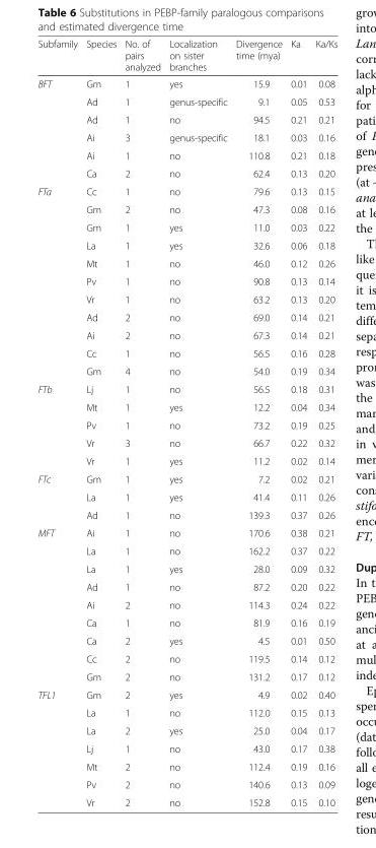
<table><thead><tr><td>Subfamily</td><td>Species</td><td>No. of pairs analyzed</td><td>Localization on sister branches</td><td>Divergence time (mya)</td><td>Ka</td><td>Ka/Ks</td></tr></thead><tbody><tr><td rowspan="6">BFT</td><td>Gm</td><td>1</td><td>yes</td><td>15.9</td><td>0.01</td><td>0.08</td></tr><tr><td>Ad</td><td>1</td><td>genus-specific</td><td>9.1</td><td>0.05</td><td>0.53</td></tr><tr><td>Ad</td><td>1</td><td>no</td><td>94.5</td><td>0.21</td><td>0.21</td></tr><tr><td>Ai</td><td>3</td><td>genus-specific</td><td>18.1</td><td>0.03</td><td>0.16</td></tr><tr><td>Ai</td><td>1</td><td>no</td><td>110.8</td><td>0.21</td><td>0.18</td></tr><tr><td>Ca</td><td>2</td><td>no</td><td>62.4</td><td>0.13</td><td>0.20</td></tr><tr><td rowspan="11">FTa</td><td>Cc</td><td>1</td><td>no</td><td>79.6</td><td>0.13</td><td>0.15</td></tr><tr><td>Gm</td><td>2</td><td>no</td><td>47.3</td><td>0.08</td><td>0.16</td></tr><tr><td>Gm</td><td>1</td><td>yes</td><td>11.0</td><td>0.03</td><td>0.22</td></tr><tr><td>La</td><td>1</td><td>yes</td><td>32.6</td><td>0.06</td><td>0.18</td></tr><tr><td>Mt</td><td>1</td><td>no</td><td>46.0</td><td>0.12</td><td>0.26</td></tr><tr><td>Pv</td><td>1</td><td>no</td><td>90.8</td><td>0.13</td><td>0.14</td></tr><tr><td>Vr</td><td>1</td><td>no</td><td>63.2</td><td>0.13</td><td>0.20</td></tr><tr><td>Ad</td><td>2</td><td>no</td><td>69.0</td><td>0.14</td><td>0.21</td></tr><tr><td>Ai</td><td>2</td><td>no</td><td>67.3</td><td>0.14</td><td>0.21</td></tr><tr><td>Cc</td><td>1</td><td>no</td><td>56.5</td><td>0.16</td><td>0.28</td></tr><tr><td>Gm</td><td>4</td><td>no</td><td>54.0</td><td>0.19</td><td>0.34</td></tr><tr><td rowspan="5">FTb</td><td>Lj</td><td>1</td><td>no</td><td>56.5</td><td>0.18</td><td>0.31</td></tr><tr><td>Mt</td><td>1</td><td>yes</td><td>12.2</td><td>0.04</td><td>0.34</td></tr><tr><td>Pv</td><td>1</td><td>no</td><td>73.2</td><td>0.19</td><td>0.25</td></tr><tr><td>Vr</td><td>3</td><td>no</td><td>66.7</td><td>0.22</td><td>0.32</td></tr><tr><td>Vr</td><td>1</td><td>yes</td><td>11.2</td><td>0.02</td><td>0.14</td></tr><tr><td rowspan="3">FTc</td><td>Gm</td><td>1</td><td>yes</td><td>7.2</td><td>0.02</td><td>0.21</td></tr><tr><td>La</td><td>1</td><td>yes</td><td>41.4</td><td>0.11</td><td>0.26</td></tr><tr><td>Ad</td><td>1</td><td>no</td><td>139.3</td><td>0.37</td><td>0.26</td></tr><tr><td rowspan="9">MFT</td><td>Ai</td><td>1</td><td>no</td><td>170.6</td><td>0.38</td><td>0.21</td></tr><tr><td>La</td><td>1</td><td>no</td><td>162.2</td><td>0.37</td><td>0.22</td></tr><tr><td>La</td><td>1</td><td>yes</td><td>28.0</td><td>0.09</td><td>0.32</td></tr><tr><td>Ad</td><td>1</td><td>no</td><td>87.2</td><td>0.20</td><td>0.22</td></tr><tr><td>Ai</td><td>2</td><td>no</td><td>114.3</td><td>0.24</td><td>0.22</td></tr><tr><td>Ca</td><td>1</td><td>no</td><td>81.9</td><td>0.16</td><td>0.19</td></tr><tr><td>Ca</td><td>2</td><td>yes</td><td>4.5</td><td>0.01</td><td>0.50</td></tr><tr><td>Cc</td><td>2</td><td>no</td><td>119.5</td><td>0.14</td><td>0.12</td></tr><tr><td>Gm</td><td>2</td><td>no</td><td>131.2</td><td>0.17</td><td>0.12</td></tr><tr><td rowspan="7">TFL1</td><td>Gm</td><td>2</td><td>yes</td><td>4.9</td><td>0.02</td><td>0.40</td></tr><tr><td>La</td><td>1</td><td>no</td><td>112.0</td><td>0.15</td><td>0.13</td></tr><tr><td>La</td><td>2</td><td>yes</td><td>25.0</td><td>0.04</td><td>0.17</td></tr><tr><td>Lj</td><td>1</td><td>no</td><td>43.0</td><td>0.17</td><td>0.38</td></tr><tr><td>Mt</td><td>2</td><td>no</td><td>112.4</td><td>0.19</td><td>0.16</td></tr><tr><td>Pv</td><td>2</td><td>no</td><td>140.6</td><td>0.13</td><td>0.09</td></tr><tr><td>Vr</td><td>2</td><td>no</td><td>152.8</td><td>0.15</td><td>0.10</td></tr></tbody></table>